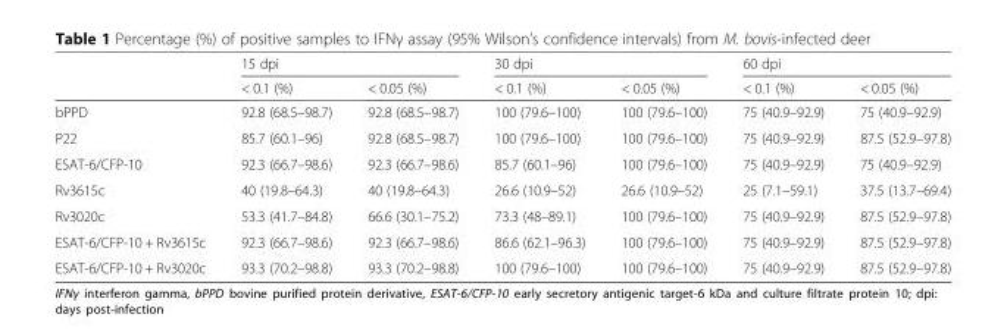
<table><thead><tr><td rowspan="2"></td><td colspan="2">15 dpi</td><td colspan="2">30 dpi</td><td colspan="2">60 dpi</td></tr><tr><td>&lt; 0.1 (%)</td><td>&lt; 0.05 (%)</td><td>&lt; 0.1 (%)</td><td>&lt; 0.05 (%)</td><td>&lt; 0.1 (%)</td><td>&lt; 0.05 (%)</td></tr></thead><tbody><tr><td>bPPD</td><td>92.8 (68.5–98.7)</td><td>92.8 (68.5–98.7)</td><td>100 (79.6–100)</td><td>100 (79.6–100)</td><td>75 (40.9–92.9)</td><td>75 (40.9–92.9)</td></tr><tr><td>P22</td><td>85.7 (60.1–96)</td><td>92.8 (68.5–98.7)</td><td>100 (79.6–100)</td><td>100 (79.6–100)</td><td>75 (40.9–92.9)</td><td>87.5 (52.9–97.8)</td></tr><tr><td>ESAT-6/CFP-10</td><td>92.3 (66.7–98.6)</td><td>92.3 (66.7–98.6)</td><td>85.7 (60.1–96)</td><td>100 (79.6–100)</td><td>75 (40.9–92.9)</td><td>75 (40.9–92.9)</td></tr><tr><td>Rv3615c</td><td>40 (19.8–64.3)</td><td>40 (19.8–64.3)</td><td>26.6 (10.9–52)</td><td>26.6 (10.9–52)</td><td>25 (7.1–59.1)</td><td>37.5 (13.7–69.4)</td></tr><tr><td>Rv3020c</td><td>53.3 (41.7–84.8)</td><td>66.6 (30.1–75.2)</td><td>73.3 (48–89.1)</td><td>100 (79.6–100)</td><td>75 (40.9–92.9)</td><td>87.5 (52.9–97.8)</td></tr><tr><td>ESAT-6/CFP-10 + Rv3615c</td><td>92.3 (66.7–98.6)</td><td>92.3 (66.7–98.6)</td><td>86.6 (62.1–96.3)</td><td>100 (79.6–100)</td><td>75 (40.9–92.9)</td><td>87.5 (52.9–97.8)</td></tr><tr><td>ESAT-6/CFP-10 + Rv3020c</td><td>93.3 (70.2–98.8)</td><td>93.3 (70.2–98.8)</td><td>100 (79.6–100)</td><td>100 (79.6–100)</td><td>75 (40.9–92.9)</td><td>87.5 (52.9–97.8)</td></tr></tbody></table>